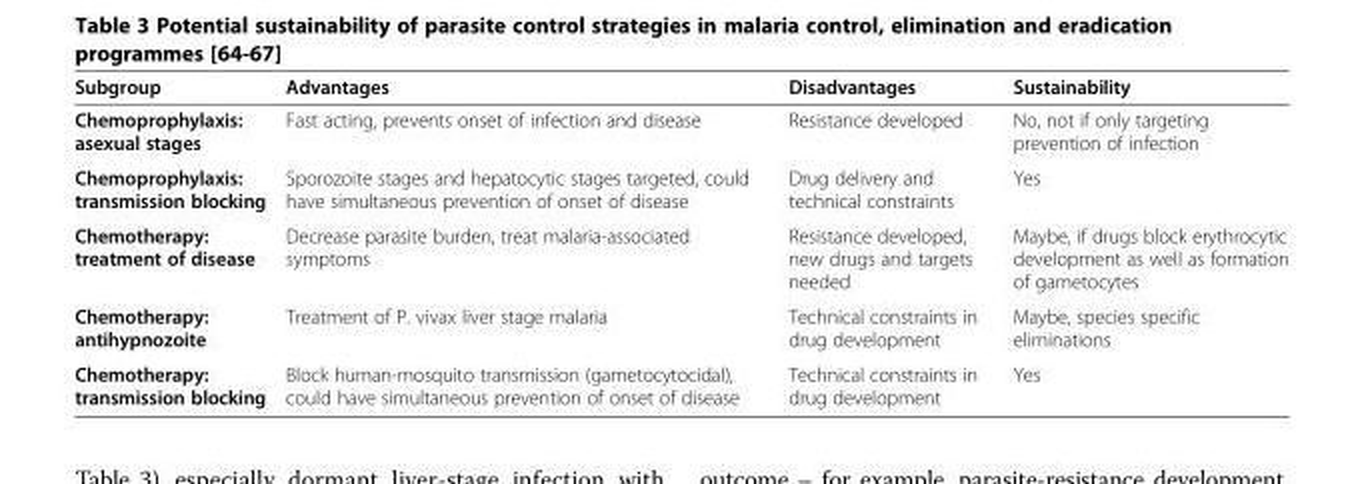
<table><thead><tr><td>Subgroup</td><td>Advantages</td><td>Disadvantages</td><td>Sustainability</td></tr></thead><tbody><tr><td>Chemoprophylaxis: asexual stages</td><td>Fast acting, prevents onset of infection and disease</td><td>Resistance developed</td><td>No, not if only targeting prevention of infection</td></tr><tr><td>Chemoprophylaxis: transmission blocking</td><td>Sporozoite stages and hepatocytic stages targeted, could have simultaneous prevention of onset of disease</td><td>Drug delivery and technical constraints</td><td>Yes</td></tr><tr><td>Chemotherapy: treatment of disease</td><td>Decrease parasite burden, treat malaria-associated symptoms</td><td>Resistance developed, new drugs and targets needed</td><td>Maybe, if drugs block erythrocytic development as well as formation of gametocytes</td></tr><tr><td>Chemotherapy: antihypnozoite</td><td>Treatment of P. vivax liver stage malaria</td><td>Technical constraints in drug development</td><td>Maybe, species specific eliminations</td></tr><tr><td>Chemotherapy: transmission blocking</td><td>Block human-mosquito transmission (gametocytocidal), could have simultaneous prevention of onset of disease</td><td>Technical constraints in drug development</td><td>Yes</td></tr></tbody></table>